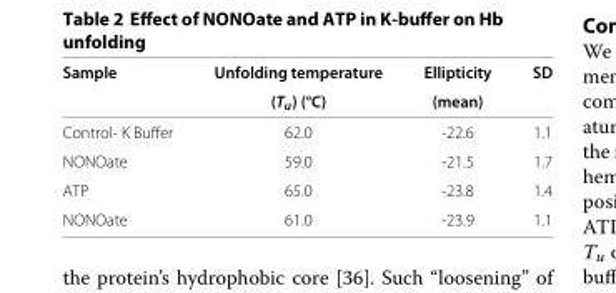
<table><thead><tr><td rowspan="2">Sample</td><td rowspan="2">Unfolding temperature (<sub>Tu</sub>) (°C)</td><td rowspan="2">Ellipticity (mean)</td><td rowspan="2">SD</td></tr><tr></tr></thead><tbody><tr><td>Control- K Buffer</td><td>62.0</td><td>-22.6</td><td>1.1</td></tr><tr><td>NONOate</td><td>59.0</td><td>-21.5</td><td>1.7</td></tr><tr><td>ATP</td><td>65.0</td><td>-23.8</td><td>1.4</td></tr><tr><td>NONOate</td><td>61.0</td><td>-23.9</td><td>1.1</td></tr></tbody></table>